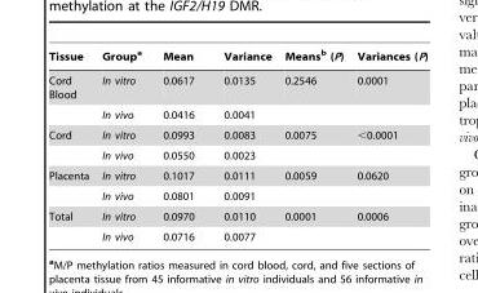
<table><thead><tr><td>Tissue</td><td>Group<sup>a</sup></td><td>Mean</td><td>Variance</td><td>Means<sup>b</sup> (P)</td><td>Variances (P)</td></tr></thead><tbody><tr><td rowspan="2">Cord Blood</td><td>In vitro</td><td>0.0617</td><td>0.0135</td><td>0.2546</td><td>0.0001</td></tr><tr><td>In vivo</td><td>0.0416</td><td>0.0041</td><td></td><td></td></tr><tr><td rowspan="2">Cord</td><td>In vitro</td><td>0.0993</td><td>0.0083</td><td>0.0075</td><td>&lt;0.0001</td></tr><tr><td>In vivo</td><td>0.0550</td><td>0.0023</td><td></td><td></td></tr><tr><td rowspan="2">Placenta</td><td>In vitro</td><td>0.1017</td><td>0.0111</td><td>0.0059</td><td>0.0620</td></tr><tr><td>In vivo</td><td>0.0801</td><td>0.0091</td><td></td><td></td></tr><tr><td rowspan="2">Total</td><td>In vitro</td><td>0.0970</td><td>0.0110</td><td>0.0001</td><td>0.0006</td></tr><tr><td>In vivo</td><td>0.0716</td><td>0.0077</td><td></td><td></td></tr></tbody></table>